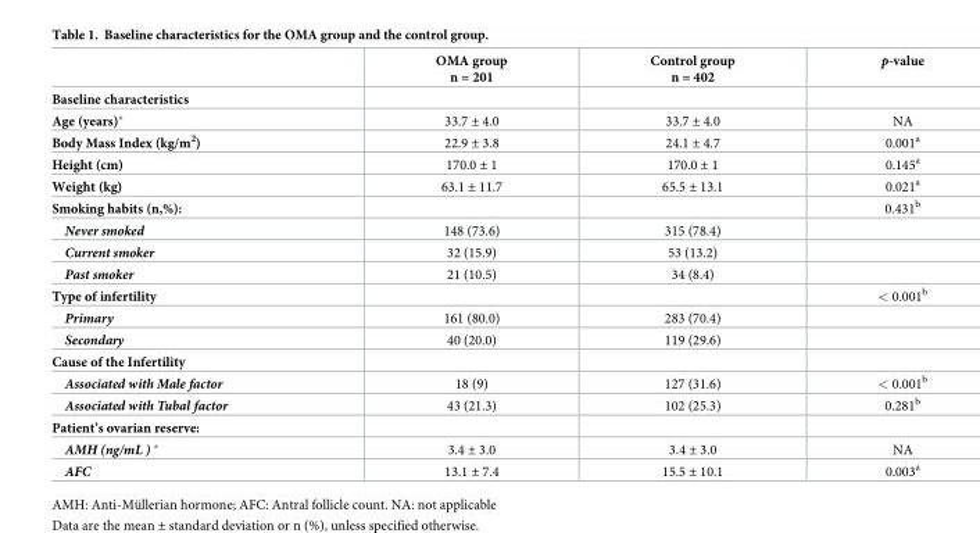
<table><thead><tr><td></td><td>OMA group n = 201</td><td>Control group n = 402</td><td>p-value</td></tr></thead><tbody><tr><td colspan="4">Baseline characteristics</td></tr><tr><td>Age (years)*</td><td>33.7 ± 4.0</td><td>33.7 ± 4.0</td><td>NA</td></tr><tr><td>Body Mass Index (kg/m<sup>2</sup>)</td><td>22.9 ± 3.8</td><td>24.1 ± 4.7</td><td>0.001<sup>a</sup></td></tr><tr><td>Height (cm)</td><td>170.0 ± 1</td><td>170.0 ± 1</td><td>0.145<sup>a</sup></td></tr><tr><td>Weight (kg)</td><td>63.1 ± 11.7</td><td>65.5 ± 13.1</td><td>0.021<sup>a</sup></td></tr><tr><td>Smoking habits (n,%):</td><td></td><td></td><td>0.431<sup>b</sup></td></tr><tr><td>Never smoked</td><td>148 (73.6)</td><td>315 (78.4)</td><td></td></tr><tr><td>Current smoker</td><td>32 (15.9)</td><td>53 (13.2)</td><td></td></tr><tr><td>Past smoker</td><td>21 (10.5)</td><td>34 (8.4)</td><td></td></tr><tr><td>Type of infertility</td><td></td><td></td><td>&lt; 0.001<sup>b</sup></td></tr><tr><td>Primary</td><td>161 (80.0)</td><td>283 (70.4)</td><td></td></tr><tr><td>Secondary</td><td>40 (20.0)</td><td>119 (29.6)</td><td></td></tr><tr><td colspan="4">Cause of the Infertility</td></tr><tr><td>Associated with Male factor</td><td>18 (9)</td><td>127 (31.6)</td><td>&lt; 0.001<sup>b</sup></td></tr><tr><td>Associated with Tubal factor</td><td>43 (21.3)</td><td>102 (25.3)</td><td>0.281<sup>b</sup></td></tr><tr><td colspan="4">Patient’s ovarian reserve:</td></tr><tr><td>AMH (ng/mL ) *</td><td>3.4 ± 3.0</td><td>3.4 ± 3.0</td><td>NA</td></tr><tr><td>AFC</td><td>13.1 ± 7.4</td><td>15.5 ± 10.1</td><td>0.003<sup>a</sup></td></tr></tbody></table>